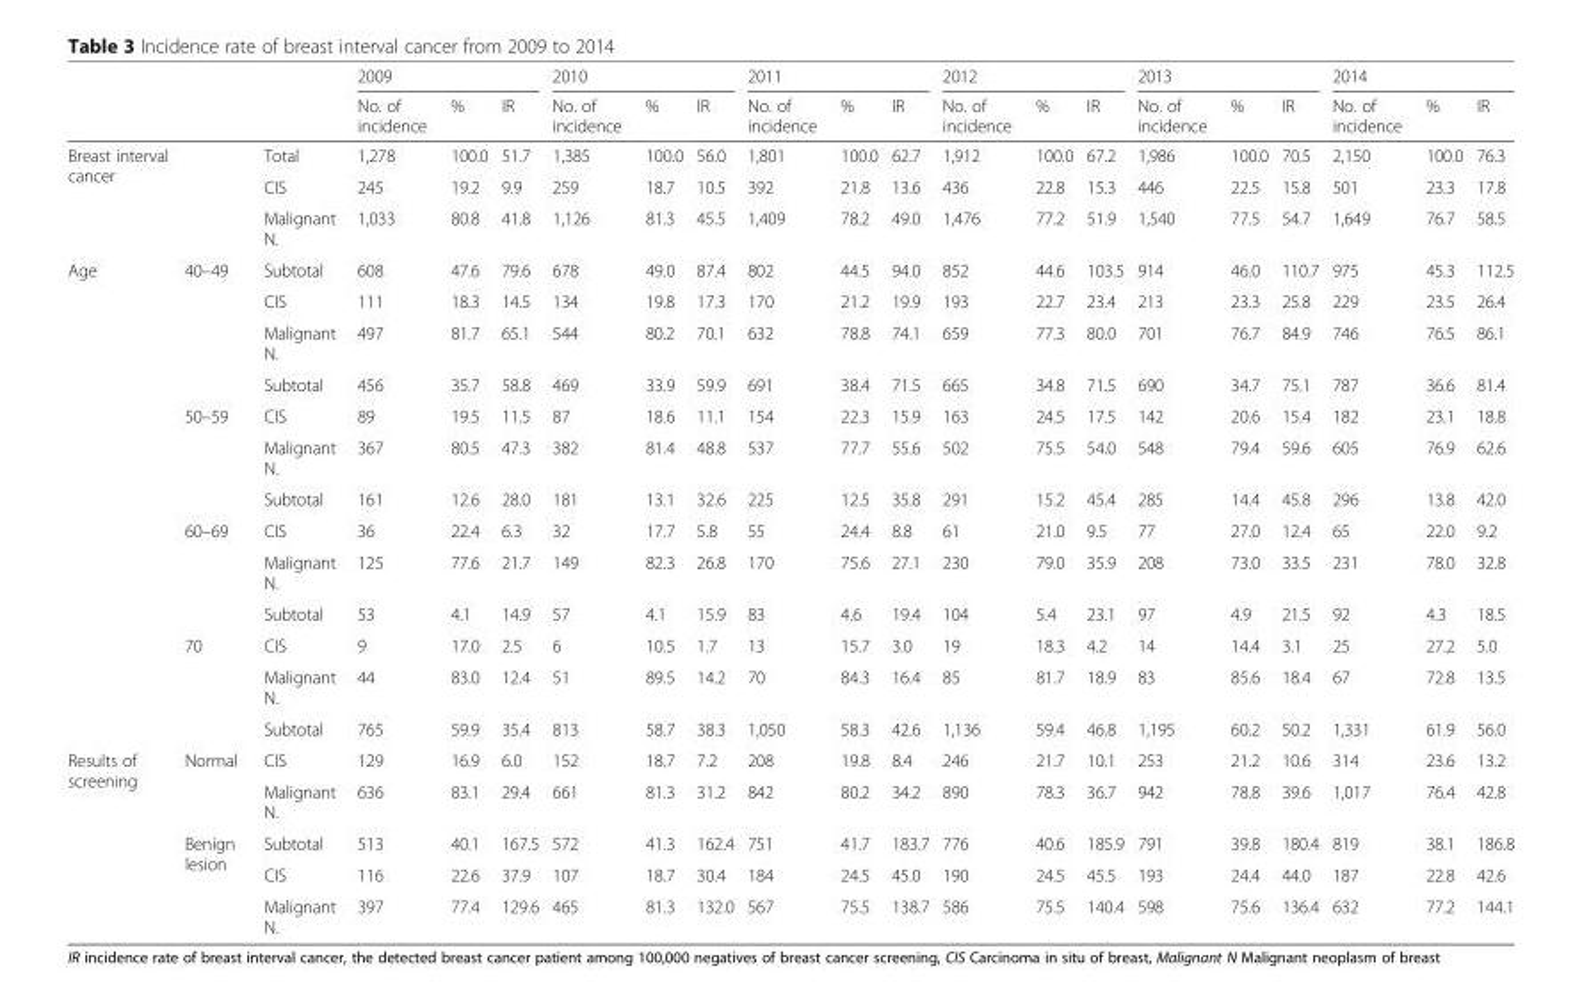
<table><thead><tr><td rowspan="2"></td><td rowspan="2"></td><td rowspan="2"></td><td colspan="3">2009</td><td colspan="3">2010</td><td colspan="3">2011</td><td colspan="3">2012</td><td colspan="3">2013</td><td colspan="3">2014</td></tr><tr><td>No. of incidence</td><td>%</td><td>IR</td><td>No. of incidence</td><td>%</td><td>IR</td><td>No. of incidence</td><td>%</td><td>IR</td><td>No. of incidence</td><td>%</td><td>IR</td><td>No. of incidence</td><td>%</td><td>IR</td><td>No. of incidence</td><td>%</td><td>IR</td></tr></thead><tbody><tr><td rowspan="3">Breast interval cancer</td><td rowspan="3"></td><td>Total</td><td>1,278</td><td>100.0</td><td>51.7</td><td>1,385</td><td>100.0</td><td>56.0</td><td>1,801</td><td>100.0</td><td>62.7</td><td>1,912</td><td>100.0</td><td>67.2</td><td>1,986</td><td>100.0</td><td>70.5</td><td>2,150</td><td>100.0</td><td>76.3</td></tr><tr><td>CIS</td><td>245</td><td>19.2</td><td>9.9</td><td>259</td><td>18.7</td><td>10.5</td><td>392</td><td>21.8</td><td>13.6</td><td>436</td><td>22.8</td><td>15.3</td><td>446</td><td>22.5</td><td>15.8</td><td>501</td><td>23.3</td><td>17.8</td></tr><tr><td>Malignant N.</td><td>1,033</td><td>80.8</td><td>41.8</td><td>1,126</td><td>81.3</td><td>45.5</td><td>1,409</td><td>78.2</td><td>49.0</td><td>1,476</td><td>77.2</td><td>51.9</td><td>1,540</td><td>77.5</td><td>54.7</td><td>1,649</td><td>76.7</td><td>58.5</td></tr><tr><td rowspan="13">Age</td><td rowspan="4">40–49</td><td>Subtotal</td><td>608</td><td>47.6</td><td>79.6</td><td>678</td><td>49.0</td><td>87.4</td><td>802</td><td>44.5</td><td>94.0</td><td>852</td><td>44.6</td><td>103.5</td><td>914</td><td>46.0</td><td>110.7</td><td>975</td><td>45.3</td><td>112.5</td></tr><tr><td>CIS</td><td>111</td><td>18.3</td><td>14.5</td><td>134</td><td>19.8</td><td>17.3</td><td>170</td><td>21.2</td><td>19.9</td><td>193</td><td>22.7</td><td>23.4</td><td>213</td><td>23.3</td><td>25.8</td><td>229</td><td>23.5</td><td>26.4</td></tr><tr><td>Malignant N.</td><td>497</td><td>81.7</td><td>65.1</td><td>544</td><td>80.2</td><td>70.1</td><td>632</td><td>78.8</td><td>74.1</td><td>659</td><td>77.3</td><td>80.0</td><td>701</td><td>76.7</td><td>84.9</td><td>746</td><td>76.5</td><td>86.1</td></tr><tr><td>Subtotal</td><td>456</td><td>35.7</td><td>58.8</td><td>469</td><td>33.9</td><td>59.9</td><td>691</td><td>38.4</td><td>71.5</td><td>665</td><td>34.8</td><td>71.5</td><td>690</td><td>34.7</td><td>75.1</td><td>787</td><td>36.6</td><td>81.4</td></tr><tr><td rowspan="3">50–59</td><td>CIS</td><td>89</td><td>19.5</td><td>11.5</td><td>87</td><td>18.6</td><td>11.1</td><td>154</td><td>22.3</td><td>15.9</td><td>163</td><td>24.5</td><td>17.5</td><td>142</td><td>20.6</td><td>15.4</td><td>182</td><td>23.1</td><td>18.8</td></tr><tr><td>Malignant N.</td><td>367</td><td>80.5</td><td>47.3</td><td>382</td><td>81.4</td><td>48.8</td><td>537</td><td>77.7</td><td>55.6</td><td>502</td><td>75.5</td><td>54.0</td><td>548</td><td>79.4</td><td>59.6</td><td>605</td><td>76.9</td><td>62.6</td></tr><tr><td>Subtotal</td><td>161</td><td>12.6</td><td>28.0</td><td>181</td><td>13.1</td><td>32.6</td><td>225</td><td>12.5</td><td>35.8</td><td>291</td><td>15.2</td><td>45.4</td><td>285</td><td>14.4</td><td>45.8</td><td>296</td><td>13.8</td><td>42.0</td></tr><tr><td rowspan="3">60–69</td><td>CIS</td><td>36</td><td>22.4</td><td>6.3</td><td>32</td><td>17.7</td><td>5.8</td><td>55</td><td>24.4</td><td>8.8</td><td>61</td><td>21.0</td><td>9.5</td><td>77</td><td>27.0</td><td>12.4</td><td>65</td><td>22.0</td><td>9.2</td></tr><tr><td>Malignant N.</td><td>125</td><td>77.6</td><td>21.7</td><td>149</td><td>82.3</td><td>26.8</td><td>170</td><td>75.6</td><td>27.1</td><td>230</td><td>79.0</td><td>35.9</td><td>208</td><td>73.0</td><td>33.5</td><td>231</td><td>78.0</td><td>32.8</td></tr><tr><td>Subtotal</td><td>53</td><td>4.1</td><td>14.9</td><td>57</td><td>4.1</td><td>15.9</td><td>83</td><td>4.6</td><td>19.4</td><td>104</td><td>5.4</td><td>23.1</td><td>97</td><td>4.9</td><td>21.5</td><td>92</td><td>4.3</td><td>18.5</td></tr><tr><td rowspan="3">70</td><td>CIS</td><td>9</td><td>17.0</td><td>2.5</td><td>6</td><td>10.5</td><td>1.7</td><td>13</td><td>15.7</td><td>3.0</td><td>19</td><td>18.3</td><td>4.2</td><td>14</td><td>14.4</td><td>3.1</td><td>25</td><td>27.2</td><td>5.0</td></tr><tr><td>Malignant N.</td><td>44</td><td>83.0</td><td>12.4</td><td>51</td><td>89.5</td><td>14.2</td><td>70</td><td>84.3</td><td>16.4</td><td>85</td><td>81.7</td><td>18.9</td><td>83</td><td>85.6</td><td>18.4</td><td>67</td><td>72.8</td><td>13.5</td></tr><tr><td>Subtotal</td><td>765</td><td>59.9</td><td>35.4</td><td>813</td><td>58.7</td><td>38.3</td><td>1,050</td><td>58.3</td><td>42.6</td><td>1,136</td><td>59.4</td><td>46.8</td><td>1,195</td><td>60.2</td><td>50.2</td><td>1,331</td><td>61.9</td><td>56.0</td></tr><tr><td rowspan="5">Results of screening</td><td rowspan="2">Normal</td><td>CIS</td><td>129</td><td>16.9</td><td>6.0</td><td>152</td><td>18.7</td><td>7.2</td><td>208</td><td>19.8</td><td>8.4</td><td>246</td><td>21.7</td><td>10.1</td><td>253</td><td>21.2</td><td>10.6</td><td>314</td><td>23.6</td><td>13.2</td></tr><tr><td>Malignant N.</td><td>636</td><td>83.1</td><td>29.4</td><td>661</td><td>81.3</td><td>31.2</td><td>842</td><td>80.2</td><td>34.2</td><td>890</td><td>78.3</td><td>36.7</td><td>942</td><td>78.8</td><td>39.6</td><td>1,017</td><td>76.4</td><td>42.8</td></tr><tr><td rowspan="3">Benign lesion</td><td>Subtotal</td><td>513</td><td>40.1</td><td>167.5</td><td>572</td><td>41.3</td><td>162.4</td><td>751</td><td>41.7</td><td>183.7</td><td>776</td><td>40.6</td><td>185.9</td><td>791</td><td>39.8</td><td>180.4</td><td>819</td><td>38.1</td><td>186.8</td></tr><tr><td>CIS</td><td>116</td><td>22.6</td><td>37.9</td><td>107</td><td>18.7</td><td>30.4</td><td>184</td><td>24.5</td><td>45.0</td><td>190</td><td>24.5</td><td>45.5</td><td>193</td><td>24.4</td><td>44.0</td><td>187</td><td>22.8</td><td>42.6</td></tr><tr><td>Malignant N.</td><td>397</td><td>77.4</td><td>129.6</td><td>465</td><td>81.3</td><td>132.0</td><td>567</td><td>75.5</td><td>138.7</td><td>586</td><td>75.5</td><td>140.4</td><td>598</td><td>75.6</td><td>136.4</td><td>632</td><td>77.2</td><td>144.1</td></tr></tbody></table>